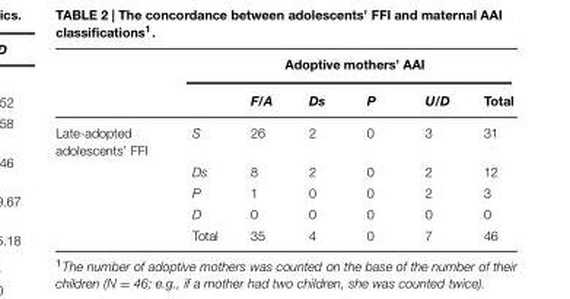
<table><thead><tr><td rowspan="2"></td><td colspan="6">Adoptive mothers’ AAI</td></tr><tr><td></td><td>F/A</td><td>Ds</td><td>P</td><td>U/D</td><td>Total</td></tr></thead><tbody><tr><td rowspan="5">Late-adopted adolescents’ FFI</td><td>S</td><td>26</td><td>2</td><td>0</td><td>3</td><td>31</td></tr><tr><td>Ds</td><td>8</td><td>2</td><td>0</td><td>2</td><td>12</td></tr><tr><td>P</td><td>1</td><td>0</td><td>0</td><td>2</td><td>3</td></tr><tr><td>D</td><td>0</td><td>0</td><td>0</td><td>0</td><td>0</td></tr><tr><td>Total</td><td>35</td><td>4</td><td>0</td><td>7</td><td>46</td></tr></tbody></table>